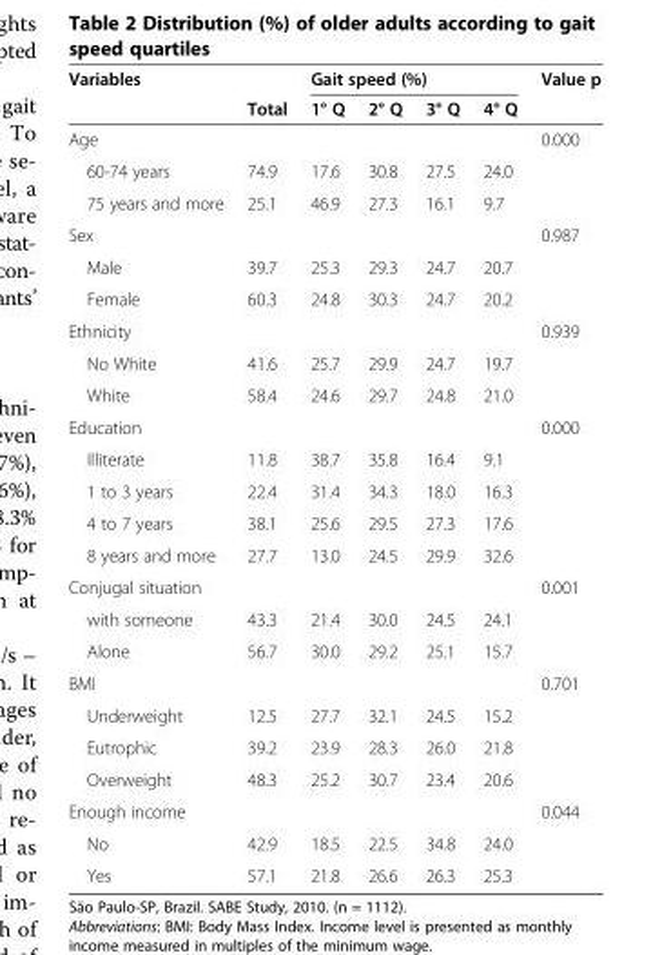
<table><thead><tr><td rowspan="2">Variables</td><td rowspan="2">Total</td><td colspan="4">Gait speed (%)</td><td rowspan="2">Value p</td></tr><tr><td>1° Q</td><td>2° Q</td><td>3° Q</td><td>4° Q</td></tr></thead><tbody><tr><td>Age</td><td></td><td></td><td></td><td></td><td></td><td>0.000</td></tr><tr><td>60-74 years</td><td>74.9</td><td>17.6</td><td>30.8</td><td>27.5</td><td>24.0</td><td></td></tr><tr><td>75 years and more</td><td>25.1</td><td>46.9</td><td>27.3</td><td>16.1</td><td>9.7</td><td></td></tr><tr><td>Sex</td><td></td><td></td><td></td><td></td><td></td><td>0.987</td></tr><tr><td>Male</td><td>39.7</td><td>25.3</td><td>29.3</td><td>24.7</td><td>20.7</td><td></td></tr><tr><td>Female</td><td>60.3</td><td>24.8</td><td>30.3</td><td>24.7</td><td>20.2</td><td></td></tr><tr><td>Ethnicity</td><td></td><td></td><td></td><td></td><td></td><td>0.939</td></tr><tr><td>No White</td><td>41.6</td><td>25.7</td><td>29.9</td><td>24.7</td><td>19.7</td><td></td></tr><tr><td>White</td><td>58.4</td><td>24.6</td><td>29.7</td><td>24.8</td><td>21.0</td><td></td></tr><tr><td>Education</td><td></td><td></td><td></td><td></td><td></td><td>0.000</td></tr><tr><td>Illiterate</td><td>11.8</td><td>38.7</td><td>35.8</td><td>16.4</td><td>9.1</td><td></td></tr><tr><td>1 to 3 years</td><td>22.4</td><td>31.4</td><td>34.3</td><td>18.0</td><td>16.3</td><td></td></tr><tr><td>4 to 7 years</td><td>38.1</td><td>25.6</td><td>29.5</td><td>27.3</td><td>17.6</td><td></td></tr><tr><td>8 years and more</td><td>27.7</td><td>13.0</td><td>24.5</td><td>29.9</td><td>32.6</td><td></td></tr><tr><td>Conjugal situation</td><td></td><td></td><td></td><td></td><td></td><td>0.001</td></tr><tr><td>with someone</td><td>43.3</td><td>21.4</td><td>30.0</td><td>24.5</td><td>24.1</td><td></td></tr><tr><td>Alone</td><td>56.7</td><td>30.0</td><td>29.2</td><td>25.1</td><td>15.7</td><td></td></tr><tr><td>BMI</td><td></td><td></td><td></td><td></td><td></td><td>0.701</td></tr><tr><td>Underweight</td><td>12.5</td><td>27.7</td><td>32.1</td><td>24.5</td><td>15.2</td><td></td></tr><tr><td>Eutrophic</td><td>39.2</td><td>23.9</td><td>28.3</td><td>26.0</td><td>21.8</td><td></td></tr><tr><td>Overweight</td><td>48.3</td><td>25.2</td><td>30.7</td><td>23.4</td><td>20.6</td><td></td></tr><tr><td>Enough income</td><td></td><td></td><td></td><td></td><td></td><td>0.044</td></tr><tr><td>No</td><td>42.9</td><td>18.5</td><td>22.5</td><td>34.8</td><td>24.0</td><td></td></tr><tr><td>Yes</td><td>57.1</td><td>21.8</td><td>26.6</td><td>26.3</td><td>25.3</td><td></td></tr></tbody></table>